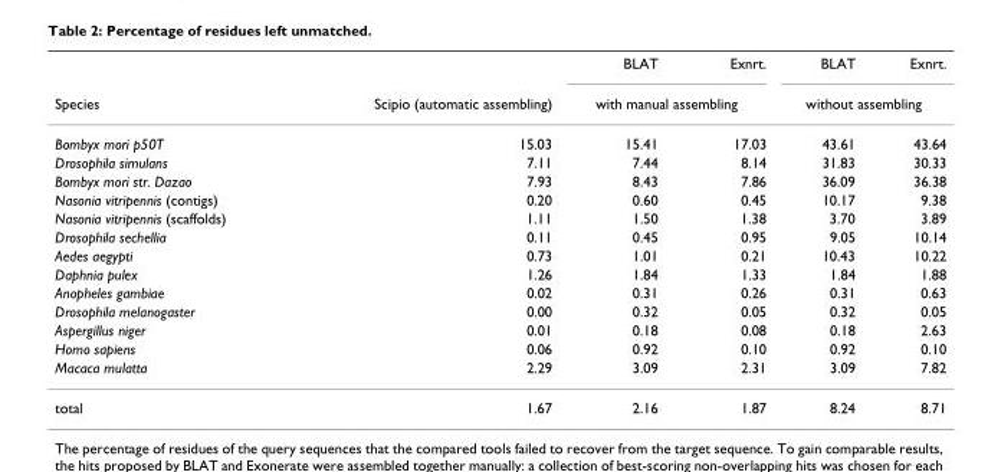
<table><thead><tr><td rowspan="2">Species</td><td rowspan="2">Scipio (automatic assembling)</td><td>BLAT</td><td>Exnrt.</td><td>BLAT</td><td>Exnrt.</td></tr><tr><td colspan="2">with manual assembling</td><td colspan="2">without assembling</td></tr></thead><tbody><tr><td>Bombyx mori p50T</td><td>15.03</td><td>15.41</td><td>17.03</td><td>43.61</td><td>43.64</td></tr><tr><td>Drosophila simulans</td><td>7.11</td><td>7.44</td><td>8.14</td><td>31.83</td><td>30.33</td></tr><tr><td>Bombyx mori str. Dazao</td><td>7.93</td><td>8.43</td><td>7.86</td><td>36.09</td><td>36.38</td></tr><tr><td>Nasonia vitripennis (contigs)</td><td>0.20</td><td>0.60</td><td>0.45</td><td>10.17</td><td>9.38</td></tr><tr><td>Nasonia vitripennis (scaffolds)</td><td>1.11</td><td>1.50</td><td>1.38</td><td>3.70</td><td>3.89</td></tr><tr><td>Drosophila sechellia</td><td>0.11</td><td>0.45</td><td>0.95</td><td>9.05</td><td>10.14</td></tr><tr><td>Aedes aegypti</td><td>0.73</td><td>1.01</td><td>0.21</td><td>10.43</td><td>10.22</td></tr><tr><td>Daphnia pulex</td><td>1.26</td><td>1.84</td><td>1.33</td><td>1.84</td><td>1.88</td></tr><tr><td>Anopheles gambiae</td><td>0.02</td><td>0.31</td><td>0.26</td><td>0.31</td><td>0.63</td></tr><tr><td>Drosophila melanogaster</td><td>0.00</td><td>0.32</td><td>0.05</td><td>0.32</td><td>0.05</td></tr><tr><td>Aspergillus niger</td><td>0.01</td><td>0.18</td><td>0.08</td><td>0.18</td><td>2.63</td></tr><tr><td>Homo sapiens</td><td>0.06</td><td>0.92</td><td>0.10</td><td>0.92</td><td>0.10</td></tr><tr><td>Macaca mulatta</td><td>2.29</td><td>3.09</td><td>2.31</td><td>3.09</td><td>7.82</td></tr><tr><td>total</td><td>1.67</td><td>2.16</td><td>1.87</td><td>8.24</td><td>8.71</td></tr></tbody></table>